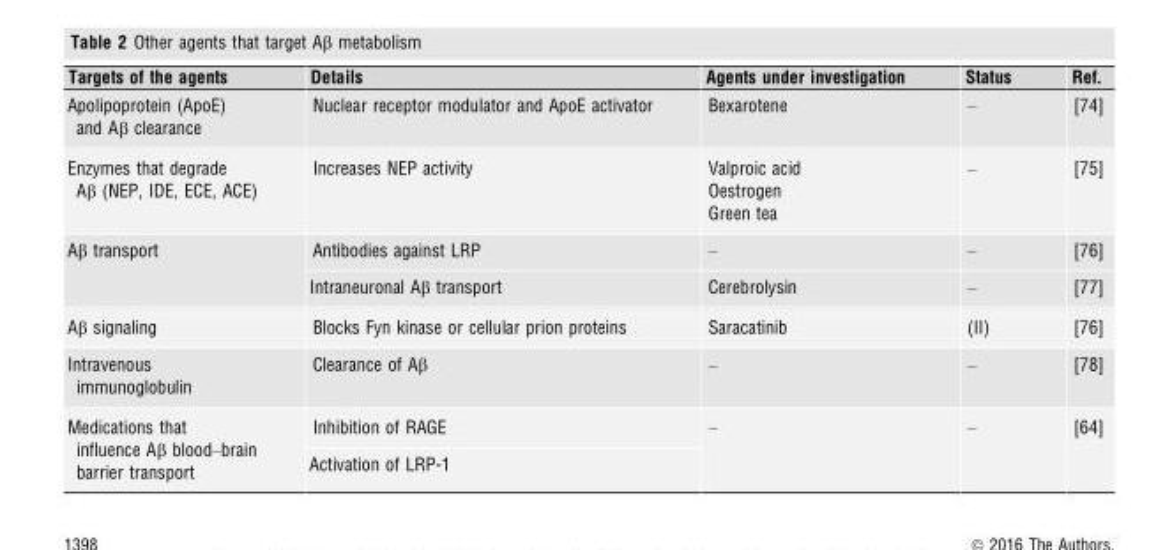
<table><thead><tr><td>Targets of the agents</td><td>Details</td><td>Agents under investigation</td><td>Status</td><td>Ref.</td></tr></thead><tbody><tr><td>Apolipoprotein (ApoE) and Aβ clearance</td><td>Nuclear receptor modulator and ApoE activator</td><td>Bexarotene</td><td>–</td><td>[74]</td></tr><tr><td>Enzymes that degrade Aβ (NEP, IDE, ECE, ACE)</td><td>Increases NEP activity</td><td>Valproic acid Oestrogen Green tea</td><td>–</td><td>[75]</td></tr><tr><td rowspan="2">Aβ transport</td><td>Antibodies against LRP</td><td>–</td><td>–</td><td>[76]</td></tr><tr><td>Intraneuronal Aβ transport</td><td>Cerebrolysin</td><td>–</td><td>[77]</td></tr><tr><td>Aβ signaling</td><td>Blocks Fyn kinase or cellular prion proteins</td><td>Saracatinib</td><td>(II)</td><td>[76]</td></tr><tr><td>Intravenous immunoglobulin</td><td>Clearance of Aβ</td><td>–</td><td>–</td><td>[78]</td></tr><tr><td rowspan="2">Medications that influence Aβ blood–brain barrier transport</td><td>Inhibition of RAGE</td><td rowspan="2">–</td><td rowspan="2">–</td><td rowspan="2">[64]</td></tr><tr><td>Activation of LRP-1</td></tr></tbody></table>